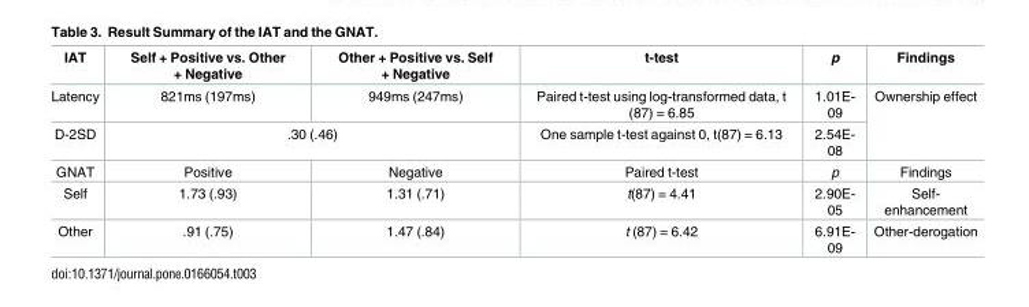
<table><thead><tr><td>IAT</td><td>Self + Positive vs. Other + Negative</td><td>Other + Positive vs. Self + Negative</td><td>t-test</td><td>p</td><td>Findings</td></tr></thead><tbody><tr><td>Latency</td><td>821ms (197ms)</td><td>949ms (247ms)</td><td>Paired t-test using log-transformed data, t (87) = 6.85</td><td>1.01E- 09</td><td rowspan="2">Ownership effect</td></tr><tr><td>D-2SD</td><td colspan="2">.30 (.46)</td><td>One sample t-test against 0, t(87) = 6.13</td><td>2.54E- 08</td></tr><tr><td>GNAT</td><td>Positive</td><td>Negative</td><td>Paired t-test</td><td>p</td><td>Findings</td></tr><tr><td>Self</td><td>1.73 (.93)</td><td>1.31 (.71)</td><td>t(87) = 4.41</td><td>2.90E- 05</td><td>Self- enhancement</td></tr><tr><td>Other</td><td>.91 (.75)</td><td>1.47 (.84)</td><td>t (87) = 6.42</td><td>6.91E- 09</td><td>Other-derogation</td></tr></tbody></table>